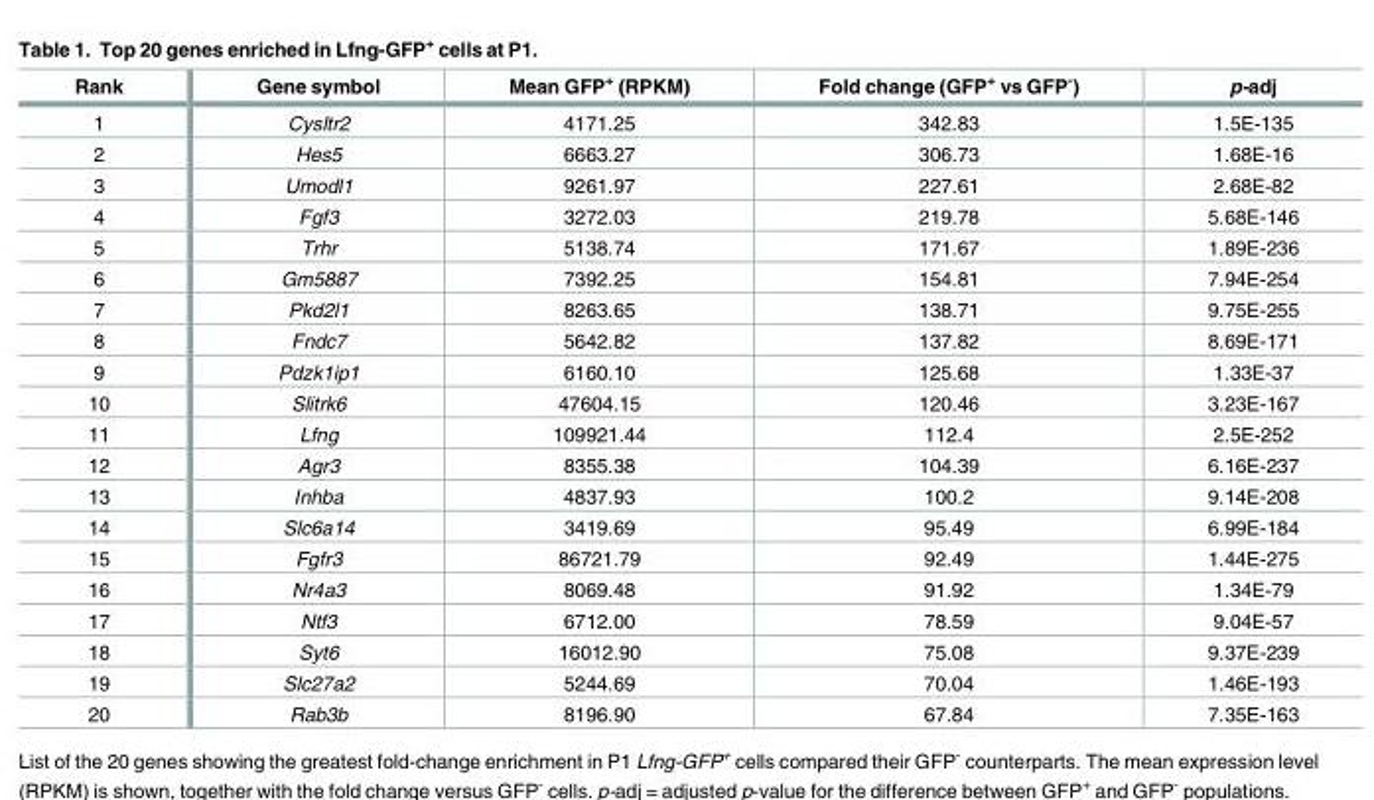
<table><thead><tr><td>Rank</td><td>Gene symbol</td><td>Mean GFP<sup>+</sup> (RPKM)</td><td>Fold change (GFP<sup>+</sup> vs GFP<sup>-</sup>)</td><td>p-adj</td></tr></thead><tbody><tr><td>1</td><td>Cysltr2</td><td>4171.25</td><td>342.83</td><td>1.5E-135</td></tr><tr><td>2</td><td>Hes5</td><td>6663.27</td><td>306.73</td><td>1.68E-16</td></tr><tr><td>3</td><td>Umodl1</td><td>9261.97</td><td>227.61</td><td>2.68E-82</td></tr><tr><td>4</td><td>Fgf3</td><td>3272.03</td><td>219.78</td><td>5.68E-146</td></tr><tr><td>5</td><td>Trhr</td><td>5138.74</td><td>171.67</td><td>1.89E-236</td></tr><tr><td>6</td><td>Gm5887</td><td>7392.25</td><td>154.81</td><td>7.94E-254</td></tr><tr><td>7</td><td>Pkd2l1</td><td>8263.65</td><td>138.71</td><td>9.75E-255</td></tr><tr><td>8</td><td>Fndc7</td><td>5642.82</td><td>137.82</td><td>8.69E-171</td></tr><tr><td>9</td><td>Pdzk1ip1</td><td>6160.10</td><td>125.68</td><td>1.33E-37</td></tr><tr><td>10</td><td>Slitrk6</td><td>47604.15</td><td>120.46</td><td>3.23E-167</td></tr><tr><td>11</td><td>Lfng</td><td>109921.44</td><td>112.4</td><td>2.5E-252</td></tr><tr><td>12</td><td>Agr3</td><td>8355.38</td><td>104.39</td><td>6.16E-237</td></tr><tr><td>13</td><td>Inhba</td><td>4837.93</td><td>100.2</td><td>9.14E-208</td></tr><tr><td>14</td><td>Slc6a14</td><td>3419.69</td><td>95.49</td><td>6.99E-184</td></tr><tr><td>15</td><td>Fgfr3</td><td>86721.79</td><td>92.49</td><td>1.44E-275</td></tr><tr><td>16</td><td>Nr4a3</td><td>8069.48</td><td>91.92</td><td>1.34E-79</td></tr><tr><td>17</td><td>Ntf3</td><td>6712.00</td><td>78.59</td><td>9.04E-57</td></tr><tr><td>18</td><td>Syt6</td><td>16012.90</td><td>75.08</td><td>9.37E-239</td></tr><tr><td>19</td><td>Slc27a2</td><td>5244.69</td><td>70.04</td><td>1.46E-193</td></tr><tr><td>20</td><td>Rab3b</td><td>8196.90</td><td>67.84</td><td>7.35E-163</td></tr></tbody></table>